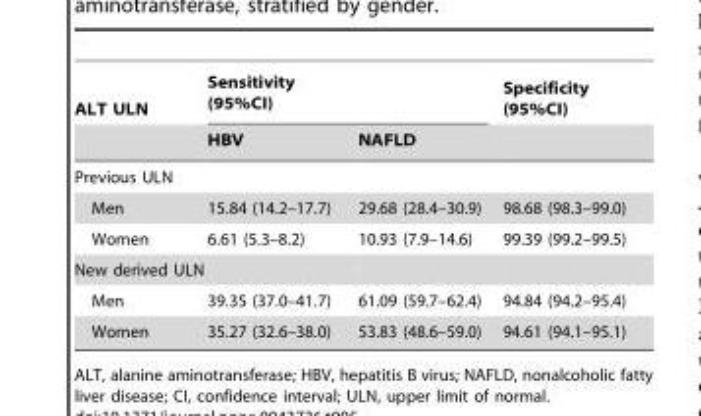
<table><thead><tr><td rowspan="2">ALT ULN</td><td colspan="2">Sensitivity (95%CI)</td><td rowspan="2">Specificity (95%CI)</td></tr><tr><td>HBV</td><td>NAFLD</td></tr></thead><tbody><tr><td colspan="4">Previous ULN</td></tr><tr><td>Men</td><td>15.84 (14.2–17.7)</td><td>29.68 (28.4–30.9)</td><td>98.68 (98.3–99.0)</td></tr><tr><td>Women</td><td>6.61 (5.3–8.2)</td><td>10.93 (7.9–14.6)</td><td>99.39 (99.2–99.5)</td></tr><tr><td colspan="4">New derived ULN</td></tr><tr><td>Men</td><td>39.35 (37.0–41.7)</td><td>61.09 (59.7–62.4)</td><td>94.84 (94.2–95.4)</td></tr><tr><td>Women</td><td>35.27 (32.6–38.0)</td><td>53.83 (48.6–59.0)</td><td>94.61 (94.1–95.1)</td></tr></tbody></table>